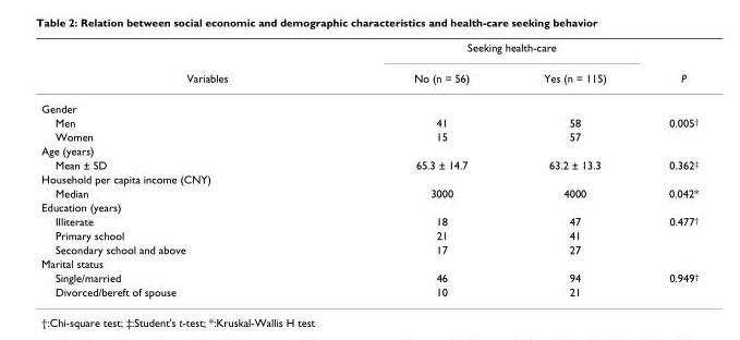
<table><thead><tr><td rowspan="2">Variables</td><td colspan="2">Seeking health-care</td><td rowspan="2">P</td></tr><tr><td>No (n = 56)</td><td>Yes (n = 115)</td></tr></thead><tbody><tr><td colspan="4">Gender</td></tr><tr><td>Men</td><td>41</td><td>58</td><td>0.005<sup>†</sup></td></tr><tr><td>Women</td><td>15</td><td>57</td><td></td></tr><tr><td colspan="4">Age (years)</td></tr><tr><td>Mean ± SD</td><td>65.3 ± 14.7</td><td>63.2 ± 13.3</td><td>0.362<sup>‡</sup></td></tr><tr><td colspan="4">Household per capita income (CNY)</td></tr><tr><td>Median</td><td>3000</td><td>4000</td><td>0.042*</td></tr><tr><td colspan="4">Education (years)</td></tr><tr><td>Illiterate</td><td>18</td><td>47</td><td>0.477<sup>†</sup></td></tr><tr><td>Primary school</td><td>21</td><td>41</td><td></td></tr><tr><td>Secondary school and above</td><td>17</td><td>27</td><td></td></tr><tr><td colspan="4">Marital status</td></tr><tr><td>Single/married</td><td>46</td><td>94</td><td>0.949<sup>†</sup></td></tr><tr><td>Divorced/bereft of spouse</td><td>10</td><td>21</td><td></td></tr></tbody></table>